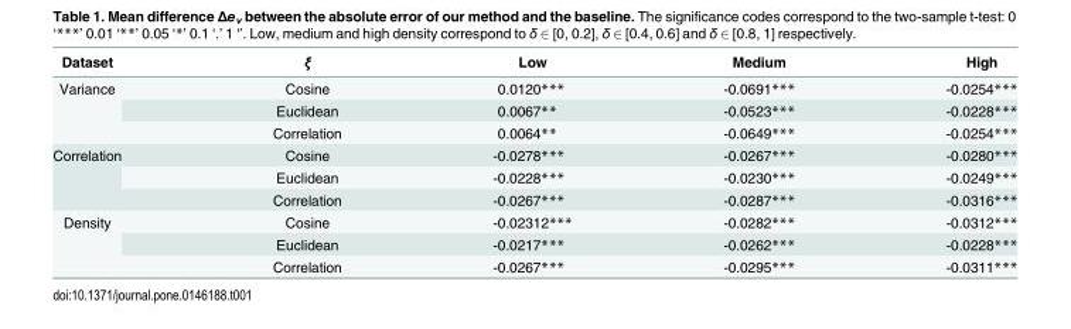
<table><thead><tr><td>Dataset</td><td>ξ</td><td>Low</td><td>Medium</td><td>High</td></tr></thead><tbody><tr><td rowspan="3">Variance</td><td>Cosine</td><td>0.0120***</td><td>-0.0691***</td><td>-0.0254***</td></tr><tr><td>Euclidean</td><td>0.0067**</td><td>-0.0523***</td><td>-0.0228***</td></tr><tr><td>Correlation</td><td>0.0064**</td><td>-0.0649***</td><td>-0.0254***</td></tr><tr><td rowspan="3">Correlation</td><td>Cosine</td><td>-0.0278***</td><td>-0.0267***</td><td>-0.0280***</td></tr><tr><td>Euclidean</td><td>-0.0228***</td><td>-0.0230***</td><td>-0.0249***</td></tr><tr><td>Correlation</td><td>-0.0267***</td><td>-0.0287***</td><td>-0.0316***</td></tr><tr><td rowspan="3">Density</td><td>Cosine</td><td>-0.02312***</td><td>-0.0282***</td><td>-0.0312***</td></tr><tr><td>Euclidean</td><td>-0.0217***</td><td>-0.0262***</td><td>-0.0228***</td></tr><tr><td>Correlation</td><td>-0.0267***</td><td>-0.0295***</td><td>-0.0311***</td></tr></tbody></table>